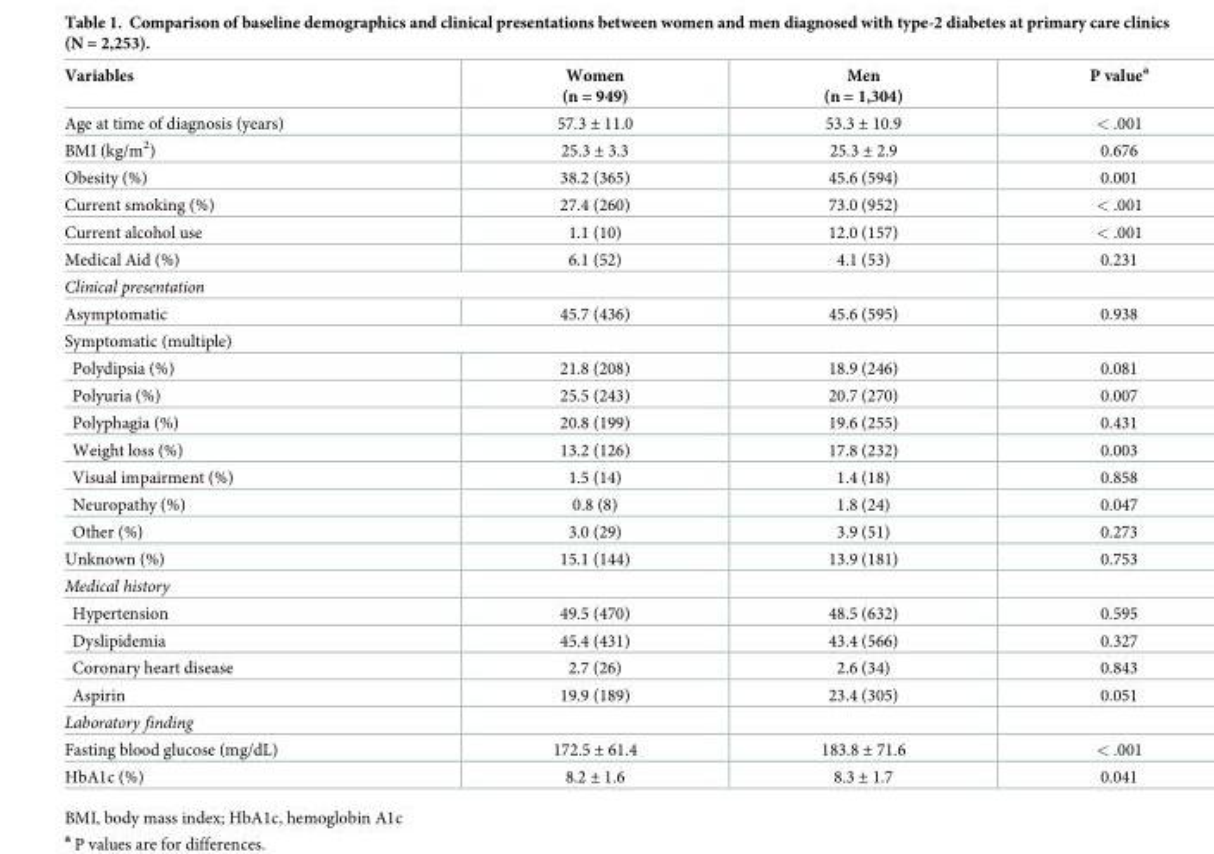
<table><thead><tr><td>Variables</td><td>Women (n = 949)</td><td>Men (n = 1,304)</td><td>P value<sup>a</sup></td></tr></thead><tbody><tr><td>Age at time of diagnosis (years)</td><td>57.3 ± 11.0</td><td>53.3 ± 10.9</td><td>&lt; .001</td></tr><tr><td>BMI (kg/m<sup>2</sup>)</td><td>25.3 ± 3.3</td><td>25.3 ± 2.9</td><td>0.676</td></tr><tr><td>Obesity (%)</td><td>38.2 (365)</td><td>45.6 (594)</td><td>0.001</td></tr><tr><td>Current smoking (%)</td><td>27.4 (260)</td><td>73.0 (952)</td><td>&lt; .001</td></tr><tr><td>Current alcohol use</td><td>1.1 (10)</td><td>12.0 (157)</td><td>&lt; .001</td></tr><tr><td>Medical Aid (%)</td><td>6.1 (52)</td><td>4.1 (53)</td><td>0.231</td></tr><tr><td colspan="4">Clinical presentation</td></tr><tr><td>Asymptomatic</td><td>45.7 (436)</td><td>45.6 (595)</td><td>0.938</td></tr><tr><td colspan="4">Symptomatic (multiple)</td></tr><tr><td>Polydipsia (%)</td><td>21.8 (208)</td><td>18.9 (246)</td><td>0.081</td></tr><tr><td>Polyuria (%)</td><td>25.5 (243)</td><td>20.7 (270)</td><td>0.007</td></tr><tr><td>Polyphagia (%)</td><td>20.8 (199)</td><td>19.6 (255)</td><td>0.431</td></tr><tr><td>Weight loss (%)</td><td>13.2 (126)</td><td>17.8 (232)</td><td>0.003</td></tr><tr><td>Visual impairment (%)</td><td>1.5 (14)</td><td>1.4 (18)</td><td>0.858</td></tr><tr><td>Neuropathy (%)</td><td>0.8 (8)</td><td>1.8 (24)</td><td>0.047</td></tr><tr><td>Other (%)</td><td>3.0 (29)</td><td>3.9 (51)</td><td>0.273</td></tr><tr><td>Unknown (%)</td><td>15.1 (144)</td><td>13.9 (181)</td><td>0.753</td></tr><tr><td colspan="4">Medical history</td></tr><tr><td>Hypertension</td><td>49.5 (470)</td><td>48.5 (632)</td><td>0.595</td></tr><tr><td>Dyslipidemia</td><td>45.4 (431)</td><td>43.4 (566)</td><td>0.327</td></tr><tr><td>Coronary heart disease</td><td>2.7 (26)</td><td>2.6 (34)</td><td>0.843</td></tr><tr><td>Aspirin</td><td>19.9 (189)</td><td>23.4 (305)</td><td>0.051</td></tr><tr><td colspan="4">Laboratory finding</td></tr><tr><td>Fasting blood glucose (mg/dL)</td><td>172.5 ± 61.4</td><td>183.8 ± 71.6</td><td>&lt; .001</td></tr><tr><td>HbA1c (%)</td><td>8.2 ± 1.6</td><td>8.3 ± 1.7</td><td>0.041</td></tr></tbody></table>